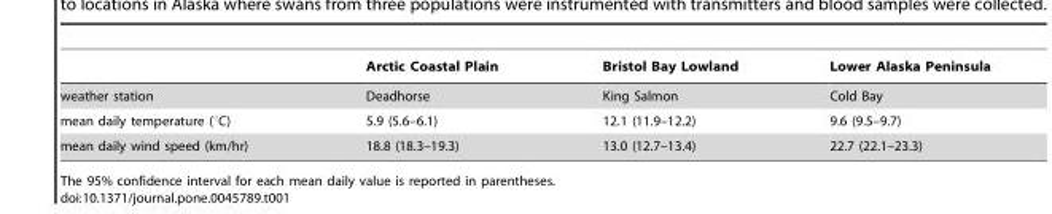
<table><thead><tr><td></td><td>Arctic Coastal Plain</td><td>Bristol Bay Lowland</td><td>Lower Alaska Peninsula</td></tr></thead><tbody><tr><td>weather station</td><td>Deadhorse</td><td>King Salmon</td><td>Cold Bay</td></tr><tr><td>mean daily temperature (°C)</td><td>5.9 (5.6–6.1)</td><td>12.1 (11.9–12.2)</td><td>9.6 (9.5–9.7)</td></tr><tr><td>mean daily wind speed (km/hr)</td><td>18.8 (18.3–19.3)</td><td>13.0 (12.7–13.4)</td><td>22.7 (22.1–23.3)</td></tr></tbody></table>